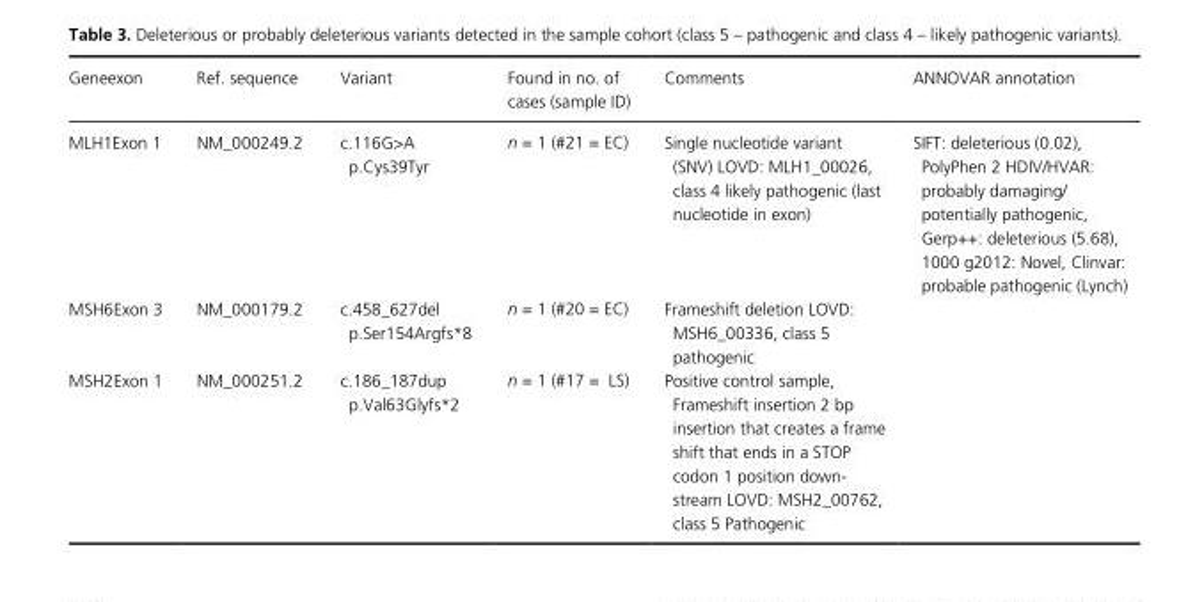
<table><thead><tr><td>Geneexon</td><td>Ref. sequence</td><td>Variant</td><td>Found in no. of cases (sample ID)</td><td>Comments</td><td>ANNOVAR annotation</td></tr></thead><tbody><tr><td>MLH1Exon 1</td><td>NM_000249.2</td><td>c.116G&gt;A p.Cys39Tyr</td><td>n = 1 (#21 = EC)</td><td>Single nucleotide variant (SNV) LOVD: MLH1_00026, class 4 likely pathogenic (last nucleotide in exon)</td><td>SIFT: deleterious (0.02), PolyPhen 2 HDIV/HVAR: probably damaging/ potentially pathogenic, Gerp++: deleterious (5.68), 1000 g2012: Novel, Clinvar: probable pathogenic (Lynch)</td></tr><tr><td>MSH6Exon 3</td><td>NM_000179.2</td><td>c.458_627del p.Ser154Argfs*8</td><td>n = 1 (#20 = EC)</td><td>Frameshift deletion LOVD: MSH6_00336, class 5 pathogenic</td><td></td></tr><tr><td>MSH2Exon 1</td><td>NM_000251.2</td><td>c.186_187dup p.Val63Glyfs*2</td><td>n = 1 (#17 = LS)</td><td>Positive control sample, Frameshift insertion 2 bp insertion that creates a frame shift that ends in a STOP codon 1 position down- stream LOVD: MSH2_00762, class 5 Pathogenic</td><td></td></tr></tbody></table>